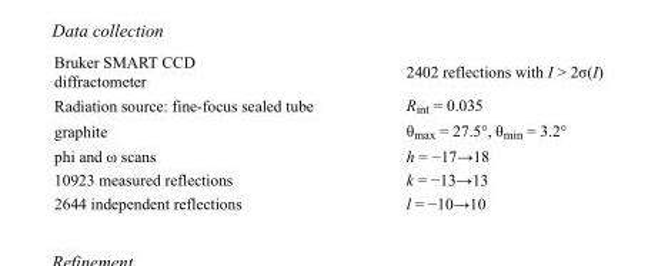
<table><tbody><tr><td>Bruker SMART CCD diffractometer</td><td>2402 reflections with I &gt; 2σ(I)</td></tr><tr><td>Radiation source: fine-focus sealed tube</td><td>R<sub>int</sub> = 0.035</td></tr><tr><td>graphite</td><td>θ<sub>max</sub> = 27.5°, θ<sub>min</sub> = 3.2°</td></tr><tr><td>phi and ω scans</td><td>h = −17→18</td></tr><tr><td>10923 measured reflections</td><td>k = −13→13</td></tr><tr><td>2644 independent reflections</td><td>l = −10→10</td></tr></tbody></table>